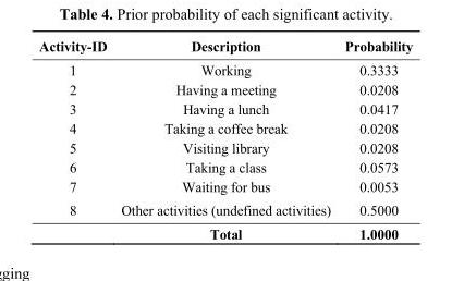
<table><thead><tr><td>Activity-ID</td><td>Description</td><td>Probability</td></tr></thead><tbody><tr><td>1</td><td>Working</td><td>0.3333</td></tr><tr><td>2</td><td>Having a meeting</td><td>0.0208</td></tr><tr><td>3</td><td>Having a lunch</td><td>0.0417</td></tr><tr><td>4</td><td>Taking a coffee break</td><td>0.0208</td></tr><tr><td>5</td><td>Visiting library</td><td>0.0208</td></tr><tr><td>6</td><td>Taking a class</td><td>0.0573</td></tr><tr><td>7</td><td>Waiting for bus</td><td>0.0053</td></tr><tr><td rowspan="2">8</td><td>Other activities (undefined activities)</td><td>0.5000</td></tr><tr><td>Total</td><td>1.0000</td></tr></tbody></table>